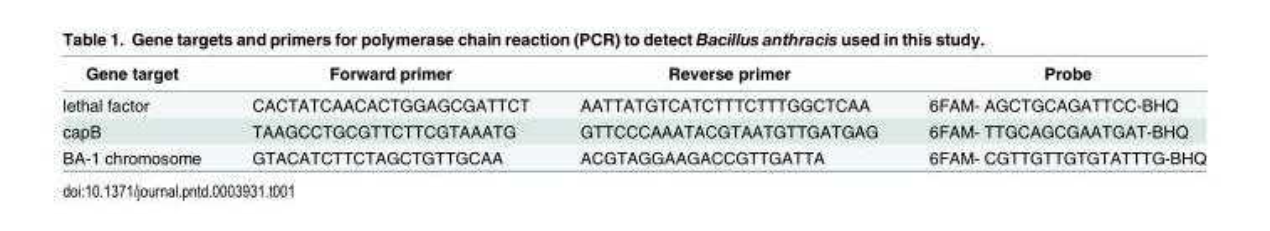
<table><thead><tr><td>Gene target</td><td>Forward primer</td><td>Reverse primer</td><td>Probe</td></tr></thead><tbody><tr><td>lethal factor</td><td>CACTATCAACACTGGAGCGATTCT</td><td>AATTATGTCATCTTTCTTTGGCTCAA</td><td>6FAM- AGCTGCAGATTCC-BHQ</td></tr><tr><td>capB</td><td>TAAGCCTGCGTTCTTCGTAAATG</td><td>GTTCCCAAATACGTAATGTTGATGAG</td><td>6FAM- TTGCAGCGAATGAT-BHQ</td></tr><tr><td>BA-1 chromosome</td><td>GTACATCTTCTAGCTGTTGCAA</td><td>ACGTAGGAAGACCGTTGATTA</td><td>6FAM- CGTTGTTGTGTATTTG-BHQ</td></tr></tbody></table>